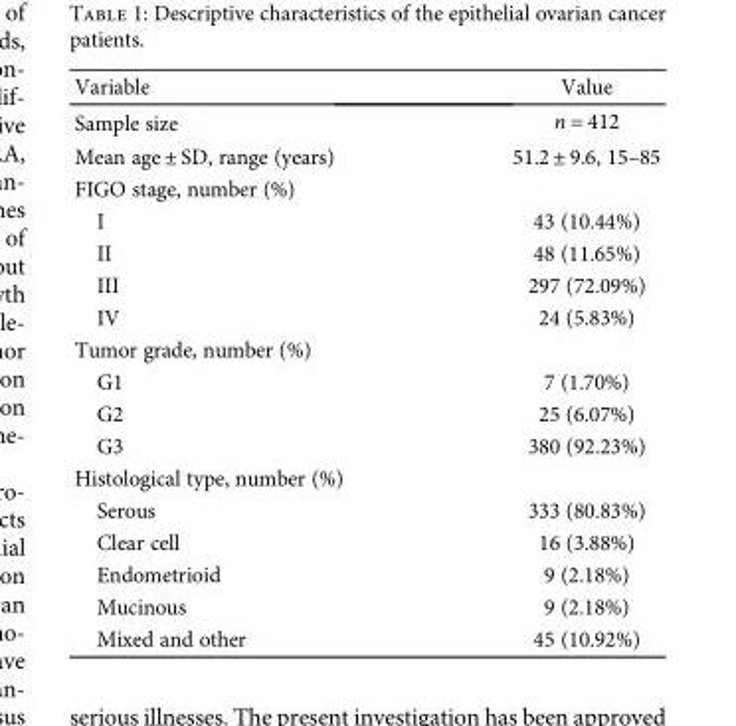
<table><thead><tr><td>Variable</td><td>Value</td></tr></thead><tbody><tr><td>Sample size</td><td>n = 412</td></tr><tr><td>Mean age ± SD, range (years)</td><td>51.2 ± 9.6, 15–85</td></tr><tr><td colspan="2">FIGO stage, number (%)</td></tr><tr><td>I</td><td>43 (10.44%)</td></tr><tr><td>II</td><td>48 (11.65%)</td></tr><tr><td>III</td><td>297 (72.09%)</td></tr><tr><td>IV</td><td>24 (5.83%)</td></tr><tr><td colspan="2">Tumor grade, number (%)</td></tr><tr><td>G1</td><td>7 (1.70%)</td></tr><tr><td>G2</td><td>25 (6.07%)</td></tr><tr><td>G3</td><td>380 (92.23%)</td></tr><tr><td colspan="2">Histological type, number (%)</td></tr><tr><td>Serous</td><td>333 (80.83%)</td></tr><tr><td>Clear cell</td><td>16 (3.88%)</td></tr><tr><td>Endometrioid</td><td>9 (2.18%)</td></tr><tr><td>Mucinous</td><td>9 (2.18%)</td></tr><tr><td>Mixed and other</td><td>45 (10.92%)</td></tr></tbody></table>